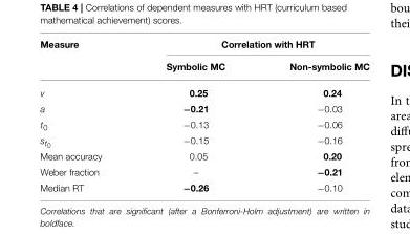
<table><thead><tr><td rowspan="2">Measure</td><td colspan="2">Correlation with HRT</td></tr><tr><td>Symbolic MC</td><td>Non-symbolic MC</td></tr></thead><tbody><tr><td>v</td><td>0.25</td><td>0.24</td></tr><tr><td>a</td><td>−0.21</td><td>−0.03</td></tr><tr><td>t<sub>0</sub></td><td>−0.13</td><td>−0.06</td></tr><tr><td>st0</td><td>−0.15</td><td>−0.16</td></tr><tr><td>Mean accuracy</td><td>0.05</td><td>0.20</td></tr><tr><td>Weber fraction</td><td>–</td><td>−0.21</td></tr><tr><td>Median RT</td><td>−0.26</td><td>−0.10</td></tr></tbody></table>